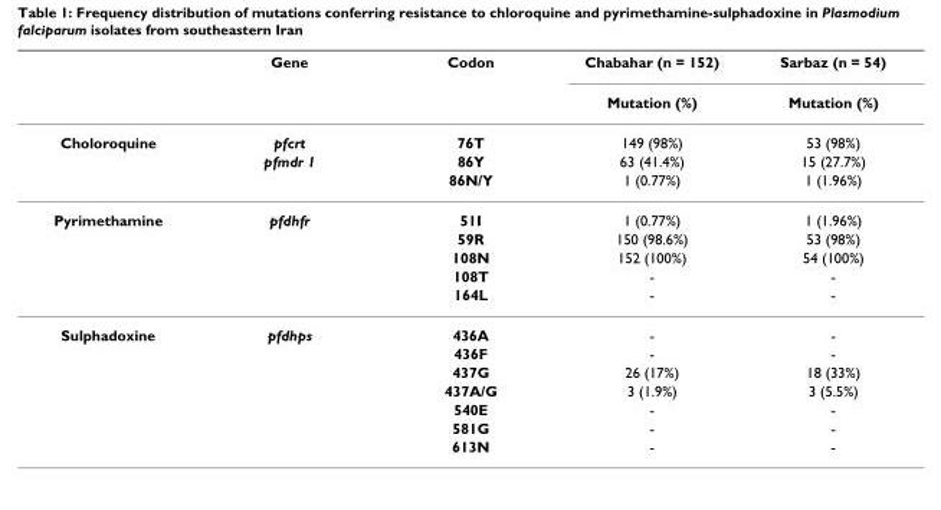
<table><thead><tr><td rowspan="2"></td><td rowspan="2">Gene</td><td rowspan="2">Codon</td><td rowspan="2">Chabahar (n = 152) Mutation (%)</td><td rowspan="2">Sarbaz (n = 54) Mutation (%)</td></tr><tr></tr></thead><tbody><tr><td rowspan="3">Choloroquine</td><td>pfcrt</td><td>76T</td><td>149 (98%)</td><td>53 (98%)</td></tr><tr><td>pfmdr 1</td><td>86Y</td><td>63 (41.4%)</td><td>15 (27.7%)</td></tr><tr><td></td><td>86N/Y</td><td>1 (0.77%)</td><td>1 (1.96%)</td></tr><tr><td rowspan="5">Pyrimethamine</td><td>pfdhfr</td><td>51I</td><td>1 (0.77%)</td><td>1 (1.96%)</td></tr><tr><td></td><td>59R</td><td>150 (98.6%)</td><td>53 (98%)</td></tr><tr><td></td><td>108N</td><td>152 (100%)</td><td>54 (100%)</td></tr><tr><td></td><td>108T</td><td>-</td><td>-</td></tr><tr><td></td><td>164L</td><td>-</td><td>-</td></tr><tr><td rowspan="7">Sulphadoxine</td><td>pfdhps</td><td>436A</td><td>-</td><td>-</td></tr><tr><td></td><td>436F</td><td>-</td><td>-</td></tr><tr><td></td><td>437G</td><td>26 (17%)</td><td>18 (33%)</td></tr><tr><td></td><td>437A/G</td><td>3 (1.9%)</td><td>3 (5.5%)</td></tr><tr><td></td><td>540E</td><td>-</td><td>-</td></tr><tr><td></td><td>581G</td><td>-</td><td>-</td></tr><tr><td></td><td>613N</td><td>-</td><td>-</td></tr></tbody></table>